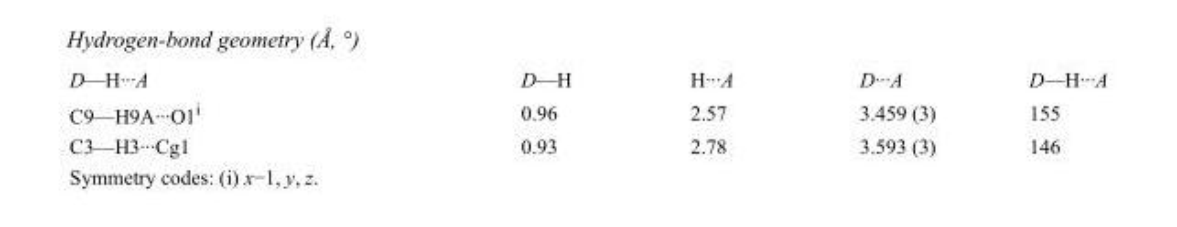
<table><tbody><tr><td>D—H···A</td><td>D—H</td><td>H···A</td><td>D···A</td><td>D—H···A</td></tr><tr><td>C9—H9A···O1<sup>i</sup></td><td>0.96</td><td>2.57</td><td>3.459 (3)</td><td>155</td></tr><tr><td>C3—H3···Cg1</td><td>0.93</td><td>2.78</td><td>3.593 (3)</td><td>146</td></tr></tbody></table>